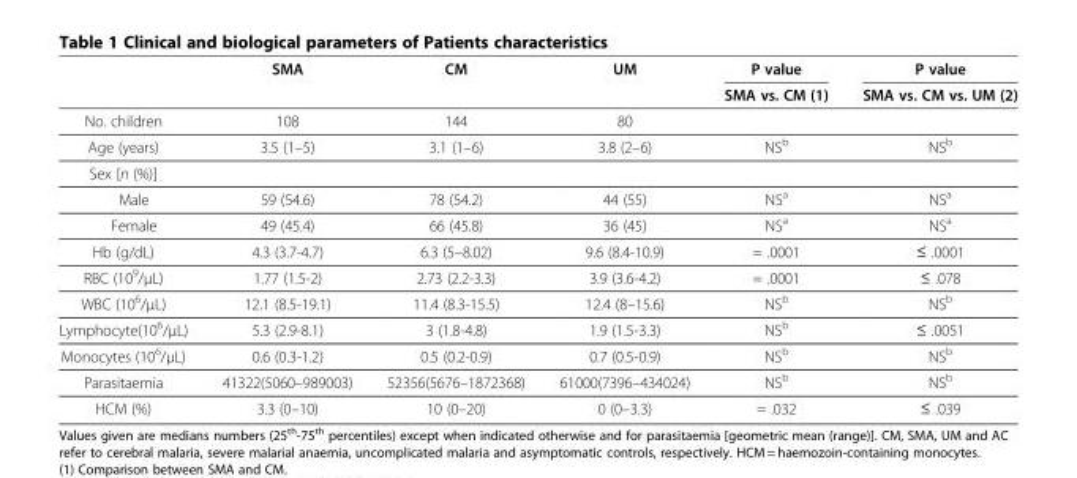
<table><thead><tr><td rowspan="2"></td><td rowspan="2">SMA</td><td rowspan="2">CM</td><td rowspan="2">UM</td><td rowspan="2">P value SMA vs. CM (1)</td><td rowspan="2">P value SMA vs. CM vs. UM (2)</td></tr><tr></tr></thead><tbody><tr><td>No. children</td><td>108</td><td>144</td><td>80</td><td></td><td></td></tr><tr><td>Age (years)</td><td>3.5 (1–5)</td><td>3.1 (1–6)</td><td>3.8 (2–6)</td><td>NS<sup>b</sup></td><td>NS<sup>b</sup></td></tr><tr><td colspan="6">Sex [n (%)]</td></tr><tr><td>Male</td><td>59 (54.6)</td><td>78 (54.2)</td><td>44 (55)</td><td>NS<sup>a</sup></td><td>NS<sup>a</sup></td></tr><tr><td>Female</td><td>49 (45.4)</td><td>66 (45.8)</td><td>36 (45)</td><td>NS<sup>a</sup></td><td>NS<sup>a</sup></td></tr><tr><td>Hb (g/dL)</td><td>4.3 (3.7-4.7)</td><td>6.3 (5–8.02)</td><td>9.6 (8.4-10.9)</td><td>= .0001</td><td>≤ .0001</td></tr><tr><td>RBC (10<sup>9</sup>/μL)</td><td>1.77 (1.5-2)</td><td>2.73 (2.2-3.3)</td><td>3.9 (3.6-4.2)</td><td>= .0001</td><td>≤ .078</td></tr><tr><td>WBC (10<sup>6</sup>/μL)</td><td>12.1 (8.5-19.1)</td><td>11.4 (8.3-15.5)</td><td>12.4 (8–15.6)</td><td>NS<sup>b</sup></td><td>NS<sup>b</sup></td></tr><tr><td>Lymphocyte(10<sup>6</sup>/μL)</td><td>5.3 (2.9-8.1)</td><td>3 (1.8-4.8)</td><td>1.9 (1.5-3.3)</td><td>NS<sup>b</sup></td><td>≤ .0051</td></tr><tr><td>Monocytes (10<sup>6</sup>/μL)</td><td>0.6 (0.3-1.2)</td><td>0.5 (0.2-0.9)</td><td>0.7 (0.5-0.9)</td><td>NS<sup>b</sup></td><td>NS<sup>b</sup></td></tr><tr><td>Parasitaemia</td><td>41322(5060–989003)</td><td>52356(5676–1872368)</td><td>61000(7396–434024)</td><td>NS<sup>b</sup></td><td>NS<sup>b</sup></td></tr><tr><td>HCM (%)</td><td>3.3 (0–10)</td><td>10 (0–20)</td><td>0 (0–3.3)</td><td>= .032</td><td>≤ .039</td></tr></tbody></table>